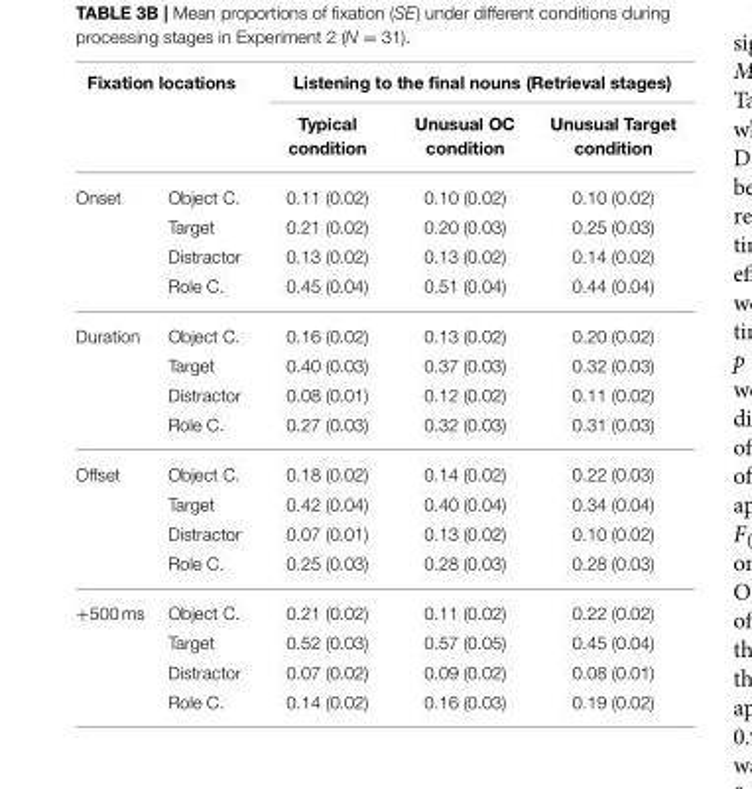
<table><thead><tr><td colspan="2">Fixation locations</td><td colspan="3">Listening to the final nouns (Retrieval stages)</td></tr><tr><td></td><td></td><td>Typical condition</td><td>Unusual OC condition</td><td>Unusual Target condition</td></tr></thead><tbody><tr><td rowspan="4">Onset</td><td>Object C.</td><td>0.11 (0.02)</td><td>0.10 (0.02)</td><td>0.10 (0.02)</td></tr><tr><td>Target</td><td>0.21 (0.02)</td><td>0.20 (0.03)</td><td>0.25 (0.03)</td></tr><tr><td>Distractor</td><td>0.13 (0.02)</td><td>0.13 (0.02)</td><td>0.14 (0.02)</td></tr><tr><td>Role C.</td><td>0.45 (0.04)</td><td>0.51 (0.04)</td><td>0.44 (0.04)</td></tr><tr><td rowspan="4">Duration</td><td>Object C.</td><td>0.16 (0.02)</td><td>0.13 (0.02)</td><td>0.20 (0.02)</td></tr><tr><td>Target</td><td>0.40 (0.03)</td><td>0.37 (0.03)</td><td>0.32 (0.03)</td></tr><tr><td>Distractor</td><td>0.08 (0.01)</td><td>0.12 (0.02)</td><td>0.11 (0.02)</td></tr><tr><td>Role C.</td><td>0.27 (0.03)</td><td>0.32 (0.03)</td><td>0.31 (0.03)</td></tr><tr><td rowspan="4">Offset</td><td>Object C.</td><td>0.18 (0.02)</td><td>0.14 (0.02)</td><td>0.22 (0.03)</td></tr><tr><td>Target</td><td>0.42 (0.04)</td><td>0.40 (0.04)</td><td>0.34 (0.04)</td></tr><tr><td>Distractor</td><td>0.07 (0.01)</td><td>0.13 (0.02)</td><td>0.10 (0.02)</td></tr><tr><td>Role C.</td><td>0.25 (0.03)</td><td>0.28 (0.03)</td><td>0.28 (0.03)</td></tr><tr><td rowspan="4">+500 ms</td><td>Object C.</td><td>0.21 (0.02)</td><td>0.11 (0.02)</td><td>0.22 (0.02)</td></tr><tr><td>Target</td><td>0.52 (0.03)</td><td>0.57 (0.05)</td><td>0.45 (0.04)</td></tr><tr><td>Distractor</td><td>0.07 (0.02)</td><td>0.09 (0.02)</td><td>0.08 (0.01)</td></tr><tr><td>Role C.</td><td>0.14 (0.02)</td><td>0.16 (0.03)</td><td>0.19 (0.02)</td></tr></tbody></table>